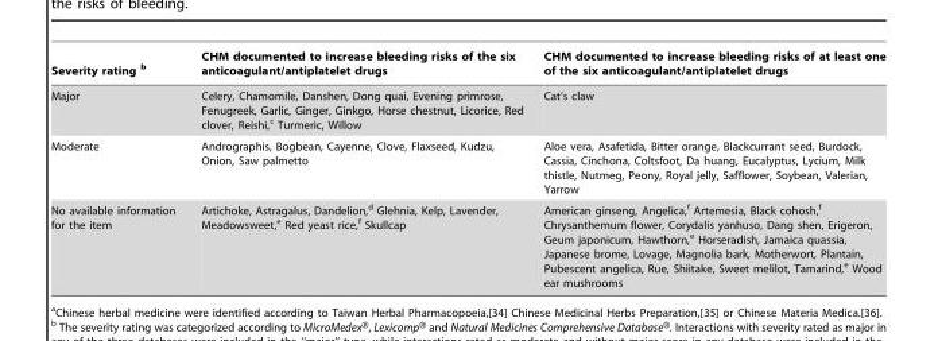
<table><thead><tr><td>Severity rating <sup>b</sup></td><td>CHM documented to increase bleeding risks of the six anticoagulant/antiplatelet drugs</td><td>CHM documented to increase bleeding risks of at least one of the six anticoagulant/antiplatelet drugs</td></tr></thead><tbody><tr><td>Major</td><td>Celery, Chamomile, Danshen, Dong quai, Evening primrose, Fenugreek, Garlic, Ginger, Ginkgo, Horse chestnut, Licorice, Red clover, Reishi,<sup>c</sup> Turmeric, Willow</td><td>Cat’s claw</td></tr><tr><td>Moderate</td><td>Andrographis, Bogbean, Cayenne, Clove, Flaxseed, Kudzu, Onion, Saw palmetto</td><td>Aloe vera, Asafetida, Bitter orange, Blackcurrant seed, Burdock, Cassia, Cinchona, Coltsfoot, Da huang, Eucalyptus, Lycium, Milk thistle, Nutmeg, Peony, Royal jelly, Safflower, Soybean, Valerian, Yarrow</td></tr><tr><td>No available information for the item</td><td>Artichoke, Astragalus, Dandelion,<sup>d</sup> Glehnia, Kelp, Lavender, Meadowsweet,<sup>e</sup> Red yeast rice,<sup>f</sup> Skullcap</td><td>American ginseng, Angelica,<sup>f</sup> Artemesia, Black cohosh,<sup>f</sup> Chrysanthemum flower, Corydalis yanhuso, Dang shen, Erigeron, Geum japonicum, Hawthorn,<sup>e</sup> Horseradish, Jamaica quassia, Japanese brome, Lovage, Magnolia bark, Motherwort, Plantain, Pubescent angelica, Rue, Shiitake, Sweet melilot, Tamarind,<sup>e</sup> Wood ear mushrooms</td></tr></tbody></table>